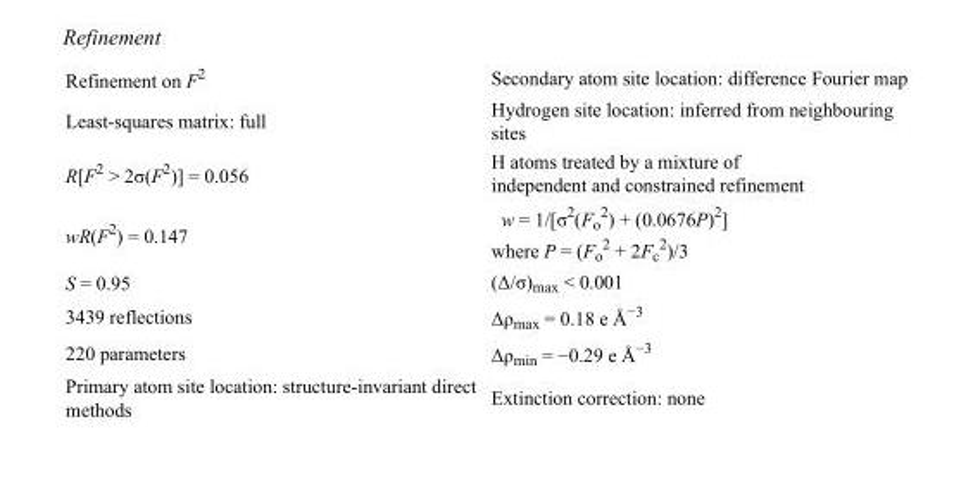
<table><tbody><tr><td>Refinement on F<sup>2</sup></td><td>Secondary atom site location: difference Fourier map</td></tr><tr><td>Least-squares matrix: full</td><td>Hydrogen site location: inferred from neighbouring sites</td></tr><tr><td>R[F<sup>2</sup> &gt; 2σ(F<sup>2</sup>)] = 0.056</td><td>H atoms treated by a mixture of independent and constrained refinement</td></tr><tr><td>wR(F<sup>2</sup>) = 0.147</td><td>w = 1/[σ<sup>2</sup>(F<sub>o</sub> <sup>2</sup>) + (0.0676P)<sup>2</sup>] where P = (F<sub>o</sub> <sup>2</sup> + 2F<sub>c</sub> <sup>2</sup>)/3</td></tr><tr><td>S = 0.95</td><td>(Δ/σ)<sub>max</sub> &lt; 0.001</td></tr><tr><td>3439 reflections</td><td>Δρ<sub>max</sub> = 0.18 e Å<sup>−3</sup></td></tr><tr><td>220 parameters</td><td>Δρ<sub>min</sub> = −0.29 e Å<sup>−3</sup></td></tr><tr><td>Primary atom site location: structure-invariant direct methods</td><td>Extinction correction: none</td></tr></tbody></table>